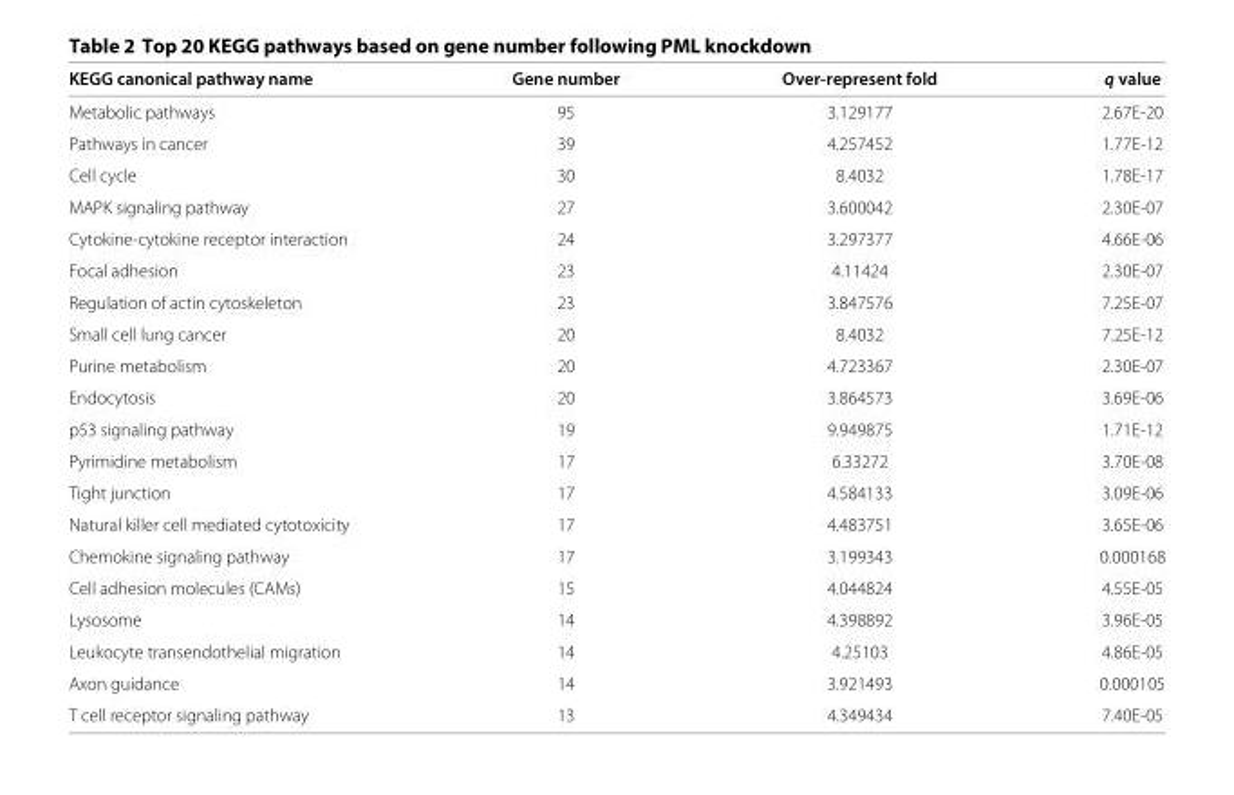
<table><thead><tr><td>KEGG canonical pathway name</td><td>Gene number</td><td>Over-represent fold</td><td>q value</td></tr></thead><tbody><tr><td>Metabolic pathways</td><td>95</td><td>3.129177</td><td>2.67E-20</td></tr><tr><td>Pathways in cancer</td><td>39</td><td>4.257452</td><td>1.77E-12</td></tr><tr><td>Cell cycle</td><td>30</td><td>8.4032</td><td>1.78E-17</td></tr><tr><td>MAPK signaling pathway</td><td>27</td><td>3.600042</td><td>2.30E-07</td></tr><tr><td>Cytokine-cytokine receptor interaction</td><td>24</td><td>3.297377</td><td>4.66E-06</td></tr><tr><td>Focal adhesion</td><td>23</td><td>4.11424</td><td>2.30E-07</td></tr><tr><td>Regulation of actin cytoskeleton</td><td>23</td><td>3.847576</td><td>7.25E-07</td></tr><tr><td>Small cell lung cancer</td><td>20</td><td>8.4032</td><td>7.25E-12</td></tr><tr><td>Purine metabolism</td><td>20</td><td>4.723367</td><td>2.30E-07</td></tr><tr><td>Endocytosis</td><td>20</td><td>3.864573</td><td>3.69E-06</td></tr><tr><td>p53 signaling pathway</td><td>19</td><td>9.949875</td><td>1.71E-12</td></tr><tr><td>Pyrimidine metabolism</td><td>17</td><td>6.33272</td><td>3.70E-08</td></tr><tr><td>Tight junction</td><td>17</td><td>4.584133</td><td>3.09E-06</td></tr><tr><td>Natural killer cell mediated cytotoxicity</td><td>17</td><td>4.483751</td><td>3.65E-06</td></tr><tr><td>Chemokine signaling pathway</td><td>17</td><td>3.199343</td><td>0.000168</td></tr><tr><td>Cell adhesion molecules (CAMs)</td><td>15</td><td>4.044824</td><td>4.55E-05</td></tr><tr><td>Lysosome</td><td>14</td><td>4.398892</td><td>3.96E-05</td></tr><tr><td>Leukocyte transendothelial migration</td><td>14</td><td>4.25103</td><td>4.86E-05</td></tr><tr><td>Axon guidance</td><td>14</td><td>3.921493</td><td>0.000105</td></tr><tr><td>T cell receptor signaling pathway</td><td>13</td><td>4.349434</td><td>7.40E-05</td></tr></tbody></table>